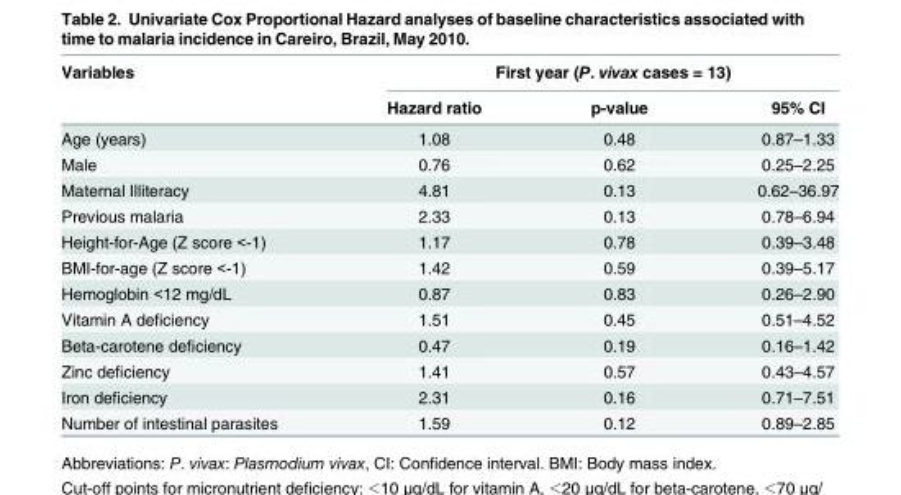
<table><thead><tr><td rowspan="2">Variables</td><td colspan="3">First year (P. vivax cases = 13)</td></tr><tr><td>Hazard ratio</td><td>p-value</td><td>95% CI</td></tr></thead><tbody><tr><td>Age (years)</td><td>1.08</td><td>0.48</td><td>0.87–1.33</td></tr><tr><td>Male</td><td>0.76</td><td>0.62</td><td>0.25–2.25</td></tr><tr><td>Maternal Illiteracy</td><td>4.81</td><td>0.13</td><td>0.62–36.97</td></tr><tr><td>Previous malaria</td><td>2.33</td><td>0.13</td><td>0.78–6.94</td></tr><tr><td>Height-for-Age (Z score &lt;-1)</td><td>1.17</td><td>0.78</td><td>0.39–3.48</td></tr><tr><td>BMI-for-age (Z score &lt;-1)</td><td>1.42</td><td>0.59</td><td>0.39–5.17</td></tr><tr><td>Hemoglobin &lt;12 mg/dL</td><td>0.87</td><td>0.83</td><td>0.26–2.90</td></tr><tr><td>Vitamin A deficiency</td><td>1.51</td><td>0.45</td><td>0.51–4.52</td></tr><tr><td>Beta-carotene deficiency</td><td>0.47</td><td>0.19</td><td>0.16–1.42</td></tr><tr><td>Zinc deficiency</td><td>1.41</td><td>0.57</td><td>0.43–4.57</td></tr><tr><td>Iron deficiency</td><td>2.31</td><td>0.16</td><td>0.71–7.51</td></tr><tr><td>Number of intestinal parasites</td><td>1.59</td><td>0.12</td><td>0.89–2.85</td></tr></tbody></table>